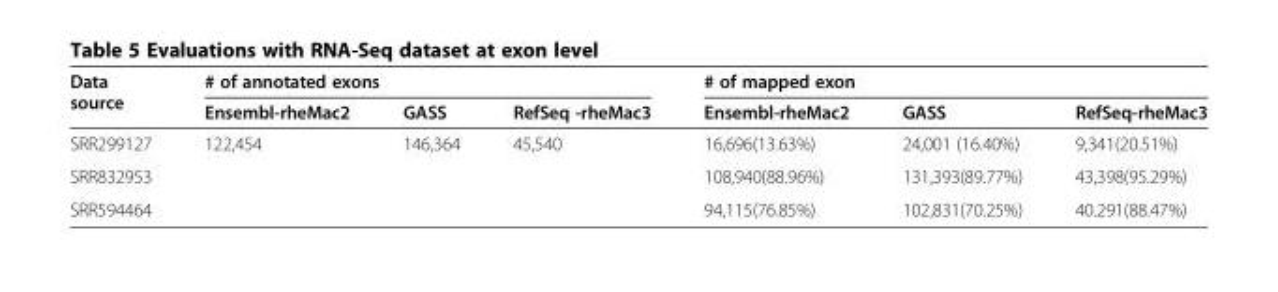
<table><thead><tr><td rowspan="2">Data source</td><td colspan="3"># of annotated exons</td><td colspan="3"># of mapped exon</td></tr><tr><td>Ensembl-rheMac2</td><td>GASS</td><td>RefSeq -rheMac3</td><td>Ensembl-rheMac2</td><td>GASS</td><td>RefSeq-rheMac3</td></tr></thead><tbody><tr><td>SRR299127</td><td rowspan="3">122,454</td><td rowspan="3">146,364</td><td rowspan="3">45,540</td><td>16,696(13.63%)</td><td>24,001 (16.40%)</td><td>9,341(20.51%)</td></tr><tr><td>SRR832953</td><td>108,940(88.96%)</td><td>131,393(89.77%)</td><td>43,398(95.29%)</td></tr><tr><td>SRR594464</td><td>94,115(76.85%)</td><td>102,831(70.25%)</td><td>40.291(88.47%)</td></tr></tbody></table>